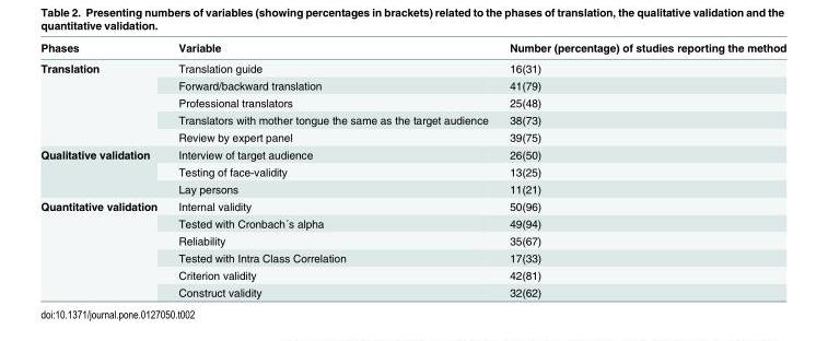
<table><thead><tr><td>Phases</td><td>Variable</td><td>Number (percentage) of studies reporting the method</td></tr></thead><tbody><tr><td rowspan="5">Translation</td><td>Translation guide</td><td>16(31)</td></tr><tr><td>Forward/backward translation</td><td>41(79)</td></tr><tr><td>Professional translators</td><td>25(48)</td></tr><tr><td>Translators with mother tongue the same as the target audience</td><td>38(73)</td></tr><tr><td>Review by expert panel</td><td>39(75)</td></tr><tr><td rowspan="3">Qualitative validation</td><td>Interview of target audience</td><td>26(50)</td></tr><tr><td>Testing of face-validity</td><td>13(25)</td></tr><tr><td>Lay persons</td><td>11(21)</td></tr><tr><td rowspan="6">Quantitative validation</td><td>Internal validity</td><td>50(96)</td></tr><tr><td>Tested with Cronbach´s alpha</td><td>49(94)</td></tr><tr><td>Reliability</td><td>35(67)</td></tr><tr><td>Tested with Intra Class Correlation</td><td>17(33)</td></tr><tr><td>Criterion validity</td><td>42(81)</td></tr><tr><td>Construct validity</td><td>32(62)</td></tr></tbody></table>